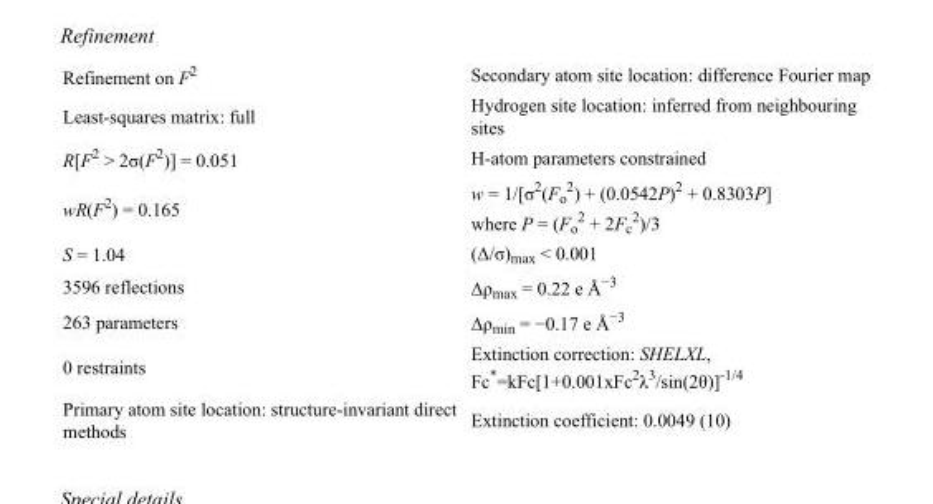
<table><tbody><tr><td>Refinement on F<sup>2</sup></td><td>Secondary atom site location: difference Fourier map</td></tr><tr><td>Least-squares matrix: full</td><td>Hydrogen site location: inferred from neighbouring sites</td></tr><tr><td>R[F<sup>2</sup> &gt; 2σ(F<sup>2</sup>)] = 0.051</td><td>H-atom parameters constrained</td></tr><tr><td>wR(F<sup>2</sup>) = 0.165</td><td>w = 1/[σ<sup>2</sup>(F<sub>o</sub> <sup>2</sup>) + (0.0542P)<sup>2</sup> + 0.8303P] where P = (F<sub>o</sub> <sup>2</sup> + 2F<sub>c</sub> <sup>2</sup>)/3</td></tr><tr><td>S = 1.04</td><td>(Δ/σ)<sub>max</sub> &lt; 0.001</td></tr><tr><td>3596 reflections</td><td>Δρ<sub>max</sub> = 0.22 e Å<sup>−3</sup></td></tr><tr><td>263 parameters</td><td>Δρ<sub>min</sub> = −0.17 e Å<sup>−3</sup></td></tr><tr><td>0 restraints</td><td>Extinction correction: SHELXL, Fc*=kFc[1+0.001xFc<sup>2</sup>λ<sup>3</sup>/sin(2θ)]<sup>-1/4</sup></td></tr><tr><td>Primary atom site location: structure-invariant direct methods</td><td>Extinction coefficient: 0.0049 (10)</td></tr></tbody></table>